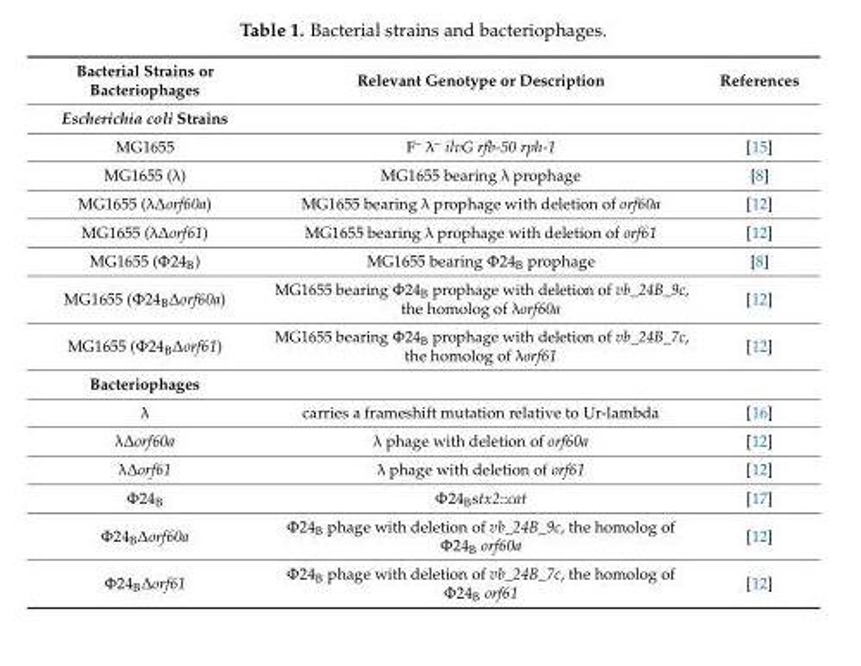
<table><thead><tr><td>Bacterial Strains or Bacteriophages</td><td>Relevant Genotype or Description</td><td>References</td></tr></thead><tbody><tr><td colspan="3">Escherichia coli Strains</td></tr><tr><td>MG1655</td><td>F<sup>–</sup> λ<sup>–</sup> ilvG rfb-50 rph-1</td><td>[15]</td></tr><tr><td>MG1655 (λ)</td><td>MG1655 bearing λ prophage</td><td>[8]</td></tr><tr><td>MG1655 (λ∆orf60a)</td><td>MG1655 bearing λ prophage with deletion of orf60a</td><td>[12]</td></tr><tr><td>MG1655 (λ∆orf61)</td><td>MG1655 bearing λ prophage with deletion of orf61</td><td>[12]</td></tr><tr><td>MG1655 (Φ24<sub>B</sub>)</td><td>MG1655 bearing Φ24<sub>B</sub> prophage</td><td>[8]</td></tr><tr><td>MG1655 (Φ24B∆orf60a)</td><td>MG1655 bearing Φ24<sub>B</sub> prophage with deletion of vb_24B_9c, the homolog of λorf60a</td><td>[12]</td></tr><tr><td>MG1655 (Φ24B∆orf61)</td><td>MG1655 bearing Φ24<sub>B</sub> prophage with deletion of vb_24B_7c, the homolog of λorf61</td><td>[12]</td></tr><tr><td colspan="3">Bacteriophages</td></tr><tr><td>λ</td><td>carries a frameshift mutation relative to Ur-lambda</td><td>[16]</td></tr><tr><td>λ∆orf60a</td><td>λ phage with deletion of orf60a</td><td>[12]</td></tr><tr><td>λ∆orf61</td><td>λ phage with deletion of orf61</td><td>[12]</td></tr><tr><td>Φ24<sub>B</sub></td><td>Φ24<sub>B</sub>stx2::cat</td><td>[17]</td></tr><tr><td>Φ24B∆orf60a</td><td>Φ24<sub>B</sub> phage with deletion of vb_24B_9c, the homolog of Φ24<sub>B</sub> orf60a</td><td>[12]</td></tr><tr><td>Φ24B∆orf61</td><td>Φ24<sub>B</sub> phage with deletion of vb_24B_7c, the homolog of Φ24<sub>B</sub> orf61</td><td>[12]</td></tr></tbody></table>